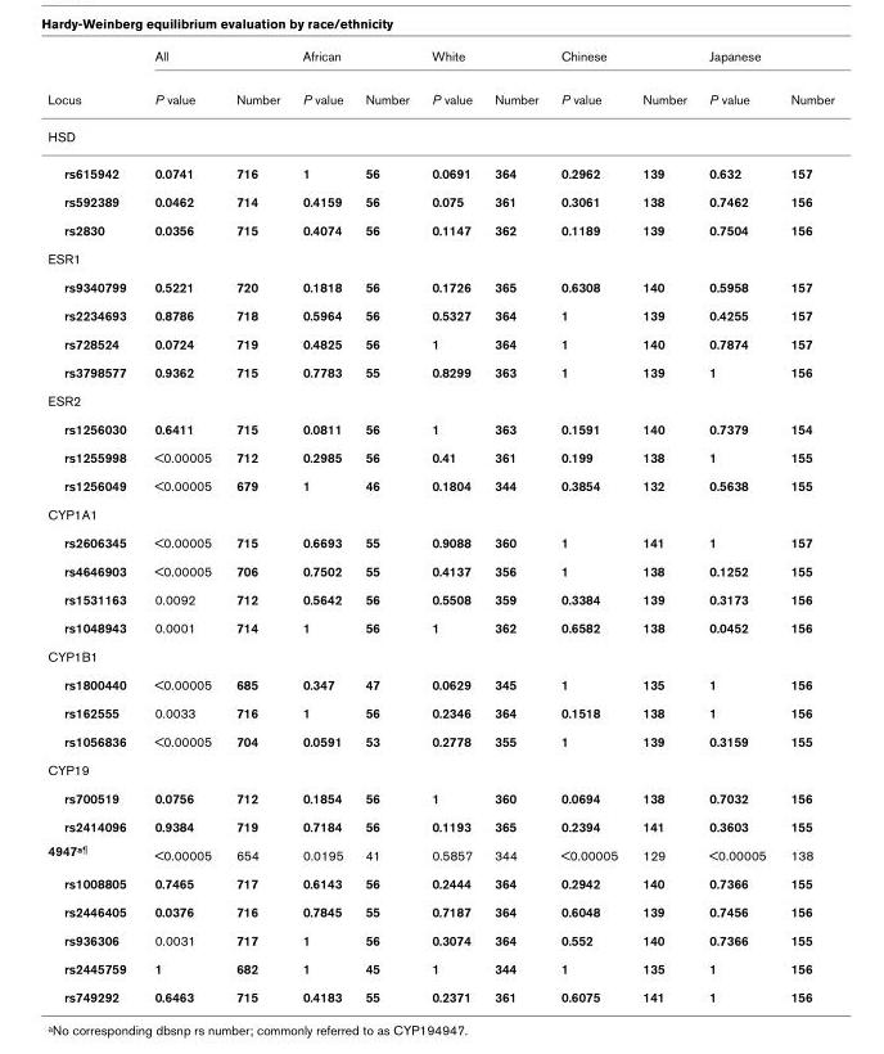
<table><thead><tr><td rowspan="2">Locus</td><td colspan="2">All</td><td colspan="2">African</td><td colspan="2">White</td><td colspan="2">Chinese</td><td colspan="2">Japanese</td></tr><tr><td>P value</td><td>Number</td><td>P value</td><td>Number</td><td>P value</td><td>Number</td><td>P value</td><td>Number</td><td>P value</td><td>Number</td></tr></thead><tbody><tr><td colspan="11">HSD</td></tr><tr><td>rs615942</td><td>0.0741</td><td>716</td><td>1</td><td>56</td><td>0.0691</td><td>364</td><td>0.2962</td><td>139</td><td>0.632</td><td>157</td></tr><tr><td>rs592389</td><td>0.0462</td><td>714</td><td>0.4159</td><td>56</td><td>0.075</td><td>361</td><td>0.3061</td><td>138</td><td>0.7462</td><td>156</td></tr><tr><td>rs2830</td><td>0.0356</td><td>715</td><td>0.4074</td><td>56</td><td>0.1147</td><td>362</td><td>0.1189</td><td>139</td><td>0.7504</td><td>156</td></tr><tr><td colspan="11">ESR1</td></tr><tr><td>rs9340799</td><td>0.5221</td><td>720</td><td>0.1818</td><td>56</td><td>0.1726</td><td>365</td><td>0.6308</td><td>140</td><td>0.5958</td><td>157</td></tr><tr><td>rs2234693</td><td>0.8786</td><td>718</td><td>0.5964</td><td>56</td><td>0.5327</td><td>364</td><td>1</td><td>139</td><td>0.4255</td><td>157</td></tr><tr><td>rs728524</td><td>0.0724</td><td>719</td><td>0.4825</td><td>56</td><td>1</td><td>364</td><td>1</td><td>140</td><td>0.7874</td><td>157</td></tr><tr><td>rs3798577</td><td>0.9362</td><td>715</td><td>0.7783</td><td>55</td><td>0.8299</td><td>363</td><td>1</td><td>139</td><td>1</td><td>156</td></tr><tr><td colspan="11">ESR2</td></tr><tr><td>rs1256030</td><td>0.6411</td><td>715</td><td>0.0811</td><td>56</td><td>1</td><td>363</td><td>0.1591</td><td>140</td><td>0.7379</td><td>154</td></tr><tr><td>rs1255998</td><td>&lt;0.00005</td><td>712</td><td>0.2985</td><td>56</td><td>0.41</td><td>361</td><td>0.199</td><td>138</td><td>1</td><td>155</td></tr><tr><td>rs1256049</td><td>&lt;0.00005</td><td>679</td><td>1</td><td>46</td><td>0.1804</td><td>344</td><td>0.3854</td><td>132</td><td>0.5638</td><td>155</td></tr><tr><td colspan="11">CYP1A1</td></tr><tr><td>rs2606345</td><td>&lt;0.00005</td><td>715</td><td>0.6693</td><td>55</td><td>0.9088</td><td>360</td><td>1</td><td>141</td><td>1</td><td>157</td></tr><tr><td>rs4646903</td><td>&lt;0.00005</td><td>706</td><td>0.7502</td><td>55</td><td>0.4137</td><td>356</td><td>1</td><td>138</td><td>0.1252</td><td>155</td></tr><tr><td>rs1531163</td><td>0.0092</td><td>712</td><td>0.5642</td><td>56</td><td>0.5508</td><td>359</td><td>0.3384</td><td>139</td><td>0.3173</td><td>156</td></tr><tr><td>rs1048943</td><td>0.0001</td><td>714</td><td>1</td><td>56</td><td>1</td><td>362</td><td>0.6582</td><td>138</td><td>0.0452</td><td>156</td></tr><tr><td colspan="11">CYP1B1</td></tr><tr><td>rs1800440</td><td>&lt;0.00005</td><td>685</td><td>0.347</td><td>47</td><td>0.0629</td><td>345</td><td>1</td><td>135</td><td>1</td><td>156</td></tr><tr><td>rs162555</td><td>0.0033</td><td>716</td><td>1</td><td>56</td><td>0.2346</td><td>364</td><td>0.1518</td><td>138</td><td>1</td><td>156</td></tr><tr><td>rs1056836</td><td>&lt;0.00005</td><td>704</td><td>0.0591</td><td>53</td><td>0.2778</td><td>355</td><td>1</td><td>139</td><td>0.3159</td><td>155</td></tr><tr><td colspan="11">CYP19</td></tr><tr><td>rs700519</td><td>0.0756</td><td>712</td><td>0.1854</td><td>56</td><td>1</td><td>360</td><td>0.0694</td><td>138</td><td>0.7032</td><td>156</td></tr><tr><td>rs2414096</td><td>0.9384</td><td>719</td><td>0.7184</td><td>56</td><td>0.1193</td><td>365</td><td>0.2394</td><td>141</td><td>0.3603</td><td>155</td></tr><tr><td>4947<sup>a¶</sup></td><td>&lt;0.00005</td><td>654</td><td>0.0195</td><td>41</td><td>0.5857</td><td>344</td><td>&lt;0.00005</td><td>129</td><td>&lt;0.00005</td><td>138</td></tr><tr><td>rs1008805</td><td>0.7465</td><td>717</td><td>0.6143</td><td>56</td><td>0.2444</td><td>364</td><td>0.2942</td><td>140</td><td>0.7366</td><td>155</td></tr><tr><td>rs2446405</td><td>0.0376</td><td>716</td><td>0.7845</td><td>55</td><td>0.7187</td><td>364</td><td>0.6048</td><td>139</td><td>0.7456</td><td>156</td></tr><tr><td>rs936306</td><td>0.0031</td><td>717</td><td>1</td><td>56</td><td>0.3074</td><td>364</td><td>0.552</td><td>140</td><td>0.7366</td><td>155</td></tr><tr><td>rs2445759</td><td>1</td><td>682</td><td>1</td><td>45</td><td>1</td><td>344</td><td>1</td><td>135</td><td>1</td><td>156</td></tr><tr><td>rs749292</td><td>0.6463</td><td>715</td><td>0.4183</td><td>55</td><td>0.2371</td><td>361</td><td>0.6075</td><td>141</td><td>1</td><td>156</td></tr></tbody></table>